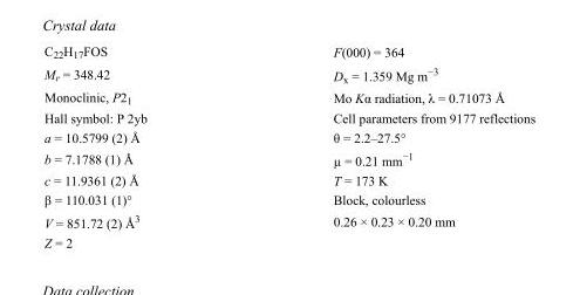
<table><tbody><tr><td>C<sub>22</sub>H<sub>17</sub>FOS</td><td>F(000) = 364</td></tr><tr><td>M<sub>r</sub> = 348.42</td><td>D<sub>x</sub> = 1.359 Mg m<sup>−3</sup></td></tr><tr><td>Monoclinic, P2<sub>1</sub></td><td>Mo Kα radiation, λ = 0.71073 Å</td></tr><tr><td>Hall symbol: P 2yb</td><td>Cell parameters from 9177 reflections</td></tr><tr><td>a = 10.5799 (2) Å</td><td>θ = 2.2–27.5°</td></tr><tr><td>b = 7.1788 (1) Å</td><td>µ = 0.21 mm<sup>−1</sup></td></tr><tr><td>c = 11.9361 (2) Å</td><td>T = 173 K</td></tr><tr><td>β = 110.031 (1)°</td><td>Block, colourless</td></tr><tr><td>V = 851.72 (2) Å<sup>3</sup></td><td>0.26 × 0.23 × 0.20 mm</td></tr><tr><td>Z = 2</td><td></td></tr></tbody></table>